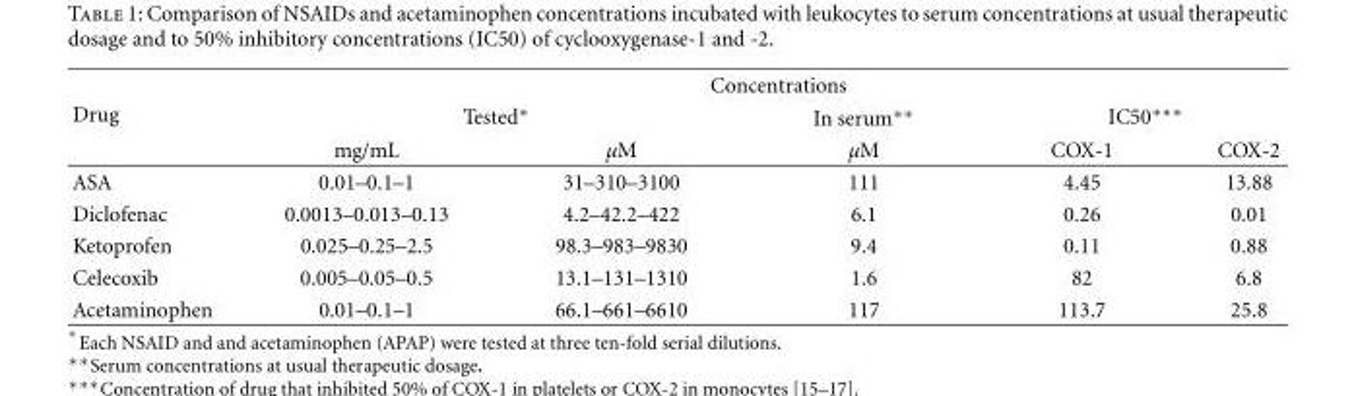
<table><thead><tr><td rowspan="3">Drug</td><td colspan="5">Concentrations</td></tr><tr><td colspan="2">Tested∗</td><td rowspan="2">In serum∗∗ μM</td><td colspan="2">IC50∗∗∗</td></tr><tr><td>mg/mL</td><td>μM</td><td>COX-1</td><td>COX-2</td></tr></thead><tbody><tr><td>ASA</td><td>0.01–0.1–1</td><td>31–310–3100</td><td>111</td><td>4.45</td><td>13.88</td></tr><tr><td>Diclofenac</td><td>0.0013–0.013–0.13</td><td>4.2–42.2–422</td><td>6.1</td><td>0.26</td><td>0.01</td></tr><tr><td>Ketoprofen</td><td>0.025–0.25–2.5</td><td>98.3–983–9830</td><td>9.4</td><td>0.11</td><td>0.88</td></tr><tr><td>Celecoxib</td><td>0.005–0.05–0.5</td><td>13.1–131–1310</td><td>1.6</td><td>82</td><td>6.8</td></tr><tr><td>Acetaminophen</td><td>0.01–0.1–1</td><td>66.1–661–6610</td><td>117</td><td>113.7</td><td>25.8</td></tr></tbody></table>